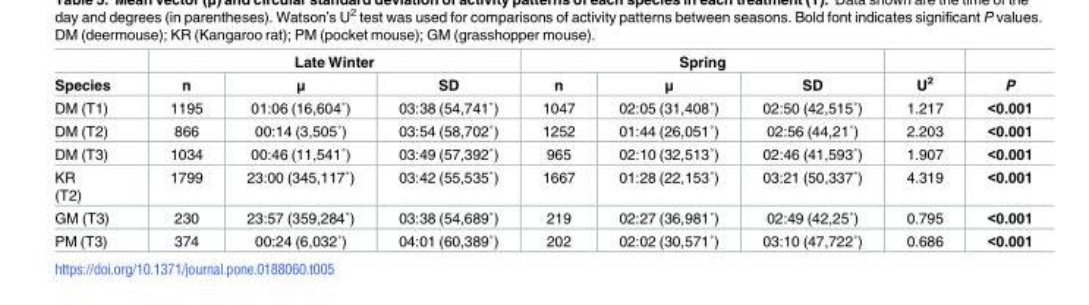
<table><thead><tr><td rowspan="2">Species</td><td colspan="3">Late Winter</td><td colspan="3">Spring</td><td rowspan="2">U<sup>2</sup></td><td rowspan="2">P</td></tr><tr><td>n</td><td>μ</td><td>SD</td><td>n</td><td>μ</td><td>SD</td></tr></thead><tbody><tr><td>DM (T1)</td><td>1195</td><td>01:06 (16,604˚)</td><td>03:38 (54,741˚)</td><td>1047</td><td>02:05 (31,408˚)</td><td>02:50 (42,515˚)</td><td>1.217</td><td>&lt;0.001</td></tr><tr><td>DM (T2)</td><td>866</td><td>00:14 (3,505˚)</td><td>03:54 (58,702˚)</td><td>1252</td><td>01:44 (26,051˚)</td><td>02:56 (44,21˚)</td><td>2.203</td><td>&lt;0.001</td></tr><tr><td>DM (T3)</td><td>1034</td><td>00:46 (11,541˚)</td><td>03:49 (57,392˚)</td><td>965</td><td>02:10 (32,513˚)</td><td>02:46 (41,593˚)</td><td>1.907</td><td>&lt;0.001</td></tr><tr><td>KR (T2)</td><td>1799</td><td>23:00 (345,117˚)</td><td>03:42 (55,535˚)</td><td>1667</td><td>01:28 (22,153˚)</td><td>03:21 (50,337˚)</td><td>4.319</td><td>&lt;0.001</td></tr><tr><td>GM (T3)</td><td>230</td><td>23:57 (359,284˚)</td><td>03:38 (54,689˚)</td><td>219</td><td>02:27 (36,981˚)</td><td>02:49 (42,25˚)</td><td>0.795</td><td>&lt;0.001</td></tr><tr><td>PM (T3)</td><td>374</td><td>00:24 (6,032˚)</td><td>04:01 (60,389˚)</td><td>202</td><td>02:02 (30,571˚)</td><td>03:10 (47,722˚)</td><td>0.686</td><td>&lt;0.001</td></tr></tbody></table>